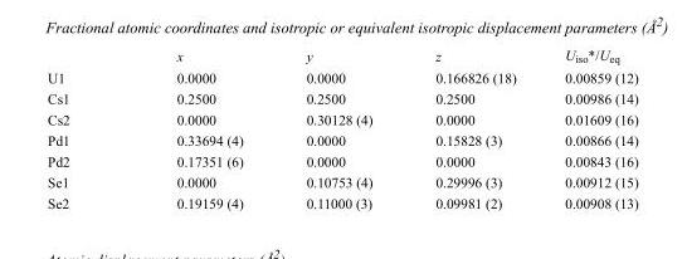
<table><thead><tr><td></td><td>x</td><td>y</td><td>z</td><td>U<sub>iso</sub>*/U<sub>eq</sub></td></tr></thead><tbody><tr><td>U1</td><td>0.0000</td><td>0.0000</td><td>0.166826 (18)</td><td>0.00859 (12)</td></tr><tr><td>Cs1</td><td>0.2500</td><td>0.2500</td><td>0.2500</td><td>0.00986 (14)</td></tr><tr><td>Cs2</td><td>0.0000</td><td>0.30128 (4)</td><td>0.0000</td><td>0.01609 (16)</td></tr><tr><td>Pd1</td><td>0.33694 (4)</td><td>0.0000</td><td>0.15828 (3)</td><td>0.00866 (14)</td></tr><tr><td>Pd2</td><td>0.17351 (6)</td><td>0.0000</td><td>0.0000</td><td>0.00843 (16)</td></tr><tr><td>Se1</td><td>0.0000</td><td>0.10753 (4)</td><td>0.29996 (3)</td><td>0.00912 (15)</td></tr><tr><td>Se2</td><td>0.19159 (4)</td><td>0.11000 (3)</td><td>0.09981 (2)</td><td>0.00908 (13)</td></tr></tbody></table>